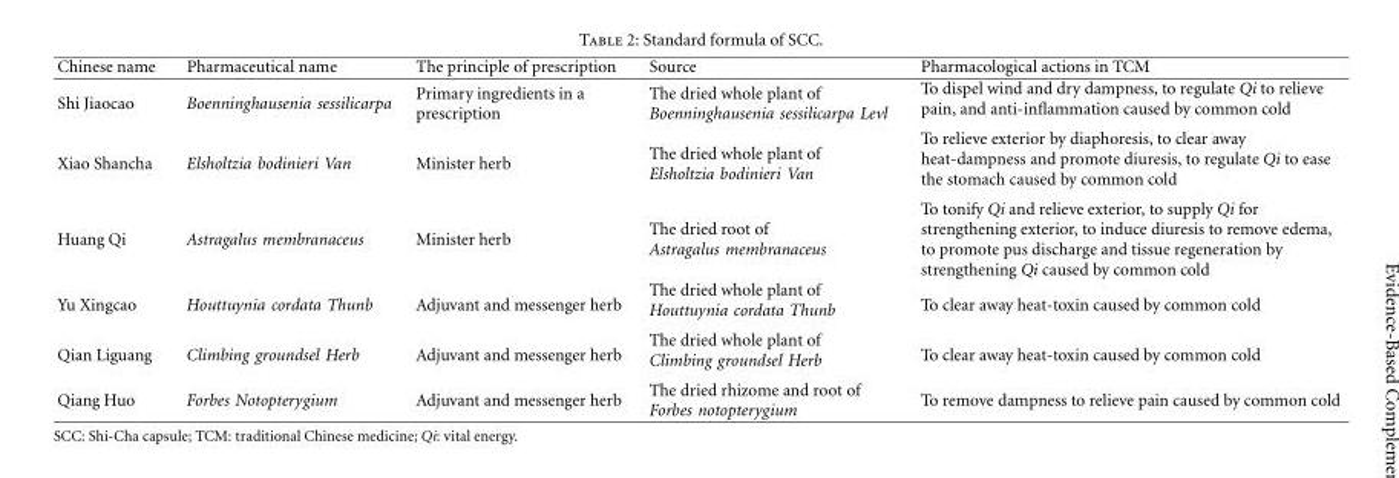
<table><thead><tr><td>Chinese name</td><td>Pharmaceutical name</td><td>The principle of prescription</td><td>Source</td><td>Pharmacological actions in TCM</td></tr></thead><tbody><tr><td>Shi Jiaocao</td><td>Boenninghausenia sessilicarpa</td><td>Primary ingredients in a prescription</td><td>The dried whole plant of Boenninghausenia sessilicarpa Levl</td><td>To dispel wind and dry dampness, to regulate Qi to relieve pain, and anti-inflammation caused by common cold</td></tr><tr><td>Xiao Shancha</td><td>Elsholtzia bodinieri Van</td><td>Minister herb</td><td>The dried whole plant of Elsholtzia bodinieri Van</td><td>To relieve exterior by diaphoresis, to clear away heat-dampness and promote diuresis, to regulate Qi to ease the stomach caused by common cold</td></tr><tr><td>Huang Qi</td><td>Astragalus membranaceus</td><td>Minister herb</td><td>The dried root of Astragalus membranaceus</td><td>To tonify Qi and relieve exterior, to supply Qi for strengthening exterior, to induce diuresis to remove edema, to promote pus discharge and tissue regeneration by strengthening Qi caused by common cold</td></tr><tr><td>Yu Xingcao</td><td>Houttuynia cordata Thunb</td><td>Adjuvant and messenger herb</td><td>The dried whole plant of Houttuynia cordata Thunb</td><td>To clear away heat-toxin caused by common cold</td></tr><tr><td>Qian Liguang</td><td>Climbing groundsel Herb</td><td>Adjuvant and messenger herb</td><td>The dried whole plant of Climbing groundsel Herb</td><td>To clear away heat-toxin caused by common cold</td></tr><tr><td>Qiang Huo</td><td>Forbes Notopterygium</td><td>Adjuvant and messenger herb</td><td>The dried rhizome and root of Forbes notopterygium</td><td>To remove dampness to relieve pain caused by common cold</td></tr></tbody></table>